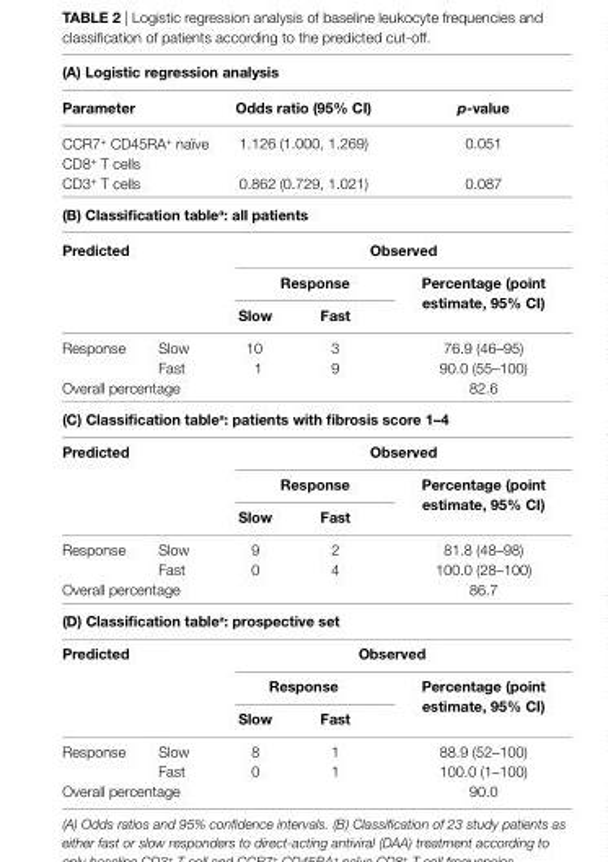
<table><thead><tr><td colspan="5">(a) logistic regression analysis</td></tr><tr><td colspan="2">Parameter</td><td colspan="2">Odds ratio (95% ci)</td><td>p-value</td></tr></thead><tbody><tr><td colspan="2">CCR7<sup>+</sup> CD45RA<sup>+</sup> naïve CD8<sup>+</sup> T cells</td><td colspan="2">1.126 (1.000, 1.269)</td><td>0.051</td></tr><tr><td colspan="2">CD3<sup>+</sup> T cells</td><td colspan="2">0.862 (0.729, 1.021)</td><td>0.087</td></tr><tr><td colspan="5">(B) classification table<sup>a</sup>: all patients</td></tr><tr><td rowspan="3" colspan="2">Predicted</td><td colspan="3">Observed</td></tr><tr><td colspan="2">response</td><td rowspan="2">Percentage (point estimate, 95% ci)</td></tr><tr><td>slow</td><td>Fast</td></tr><tr><td rowspan="2">Response</td><td>Slow</td><td>10</td><td>3</td><td>76.9 (46–95)</td></tr><tr><td>Fast</td><td>1</td><td>9</td><td>90.0 (55–100)</td></tr><tr><td colspan="2">Overall percentage</td><td colspan="2"></td><td>82.6</td></tr><tr><td colspan="5">(c) classification table<sup>a</sup>: patients with fibrosis score 1–4</td></tr><tr><td rowspan="3" colspan="2">Predicted</td><td colspan="3">Observed</td></tr><tr><td colspan="2">response</td><td rowspan="2">Percentage (point estimate, 95% ci)</td></tr><tr><td>slow</td><td>Fast</td></tr><tr><td rowspan="2">Response</td><td>Slow</td><td>9</td><td>2</td><td>81.8 (48–98)</td></tr><tr><td>Fast</td><td>0</td><td>4</td><td>100.0 (28–100)</td></tr><tr><td colspan="2">Overall percentage</td><td colspan="2"></td><td>86.7</td></tr><tr><td colspan="5">(D) classification table<sup>a</sup>: prospective set</td></tr><tr><td rowspan="3" colspan="2">Predicted</td><td colspan="3">Observed</td></tr><tr><td colspan="2">response</td><td rowspan="2">Percentage (point estimate, 95% ci)</td></tr><tr><td>slow</td><td>Fast</td></tr><tr><td rowspan="2">Response</td><td>Slow</td><td>8</td><td>1</td><td>88.9 (52–100)</td></tr><tr><td>Fast</td><td>0</td><td>1</td><td>100.0 (1–100)</td></tr><tr><td colspan="2">Overall percentage</td><td colspan="2"></td><td>90.0</td></tr></tbody></table>